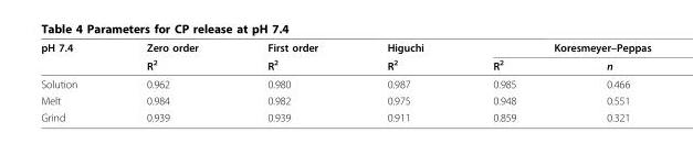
<table><thead><tr><td rowspan="2">pH 7.4</td><td rowspan="2">Zero order R<sup>2</sup></td><td rowspan="2">First order R<sup>2</sup></td><td rowspan="2">Higuchi R<sup>2</sup></td><td colspan="2">Koresmeyer–Peppas</td></tr><tr><td>R<sup>2</sup></td><td>n</td></tr></thead><tbody><tr><td>Solution</td><td>0.962</td><td>0.980</td><td>0.987</td><td>0.985</td><td>0.466</td></tr><tr><td>Melt</td><td>0.984</td><td>0.982</td><td>0.975</td><td>0.948</td><td>0.551</td></tr><tr><td>Grind</td><td>0.939</td><td>0.939</td><td>0.911</td><td>0.859</td><td>0.321</td></tr></tbody></table>